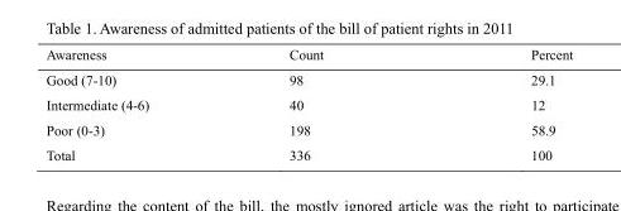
<table><thead><tr><td>Awareness</td><td>Count</td><td>Percent</td></tr></thead><tbody><tr><td>Good (7-10)</td><td>98</td><td>29.1</td></tr><tr><td>Intermediate (4-6)</td><td>40</td><td>12</td></tr><tr><td>Poor (0-3)</td><td>198</td><td>58.9</td></tr><tr><td>Total</td><td>336</td><td>100</td></tr></tbody></table>